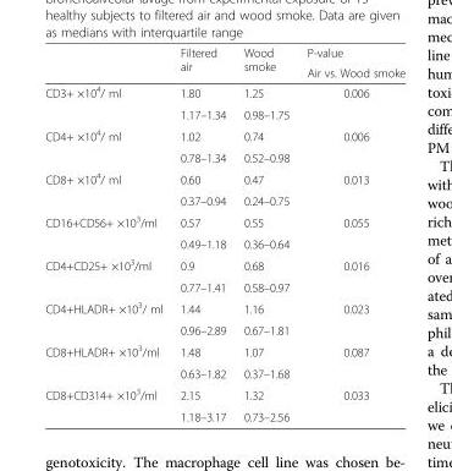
<table><thead><tr><td rowspan="2"></td><td rowspan="2">Filtered air</td><td rowspan="2">Wood smoke</td><td rowspan="2">P-value Air vs. Wood smoke</td></tr><tr></tr></thead><tbody><tr><td rowspan="2">CD3+ ×10<sup>4</sup>/ ml</td><td>1.80</td><td>1.25</td><td rowspan="2">0.006</td></tr><tr><td>1.17–1.34</td><td>0.98–1.75</td></tr><tr><td rowspan="2">CD4+ ×10<sup>4</sup>/ ml</td><td>1.02</td><td>0.74</td><td rowspan="2">0.006</td></tr><tr><td>0.78–1.34</td><td>0.52–0.98</td></tr><tr><td rowspan="2">CD8+ ×10<sup>4</sup>/ ml</td><td>0.60</td><td>0.47</td><td rowspan="2">0.013</td></tr><tr><td>0.37–0.94</td><td>0.24–0.75</td></tr><tr><td rowspan="2">CD16+CD56+ ×10<sup>3</sup>/ml</td><td>0.57</td><td>0.55</td><td rowspan="2">0.055</td></tr><tr><td>0.49–1.18</td><td>0.36–0.64</td></tr><tr><td rowspan="2">CD4+CD25+ ×10<sup>3</sup>/ml</td><td>0.9</td><td>0.68</td><td rowspan="2">0.016</td></tr><tr><td>0.77–1.41</td><td>0.58–0.97</td></tr><tr><td rowspan="2">CD4+HLADR+ ×10<sup>3</sup>/ ml</td><td>1.44</td><td>1.16</td><td rowspan="2">0.023</td></tr><tr><td>0.96–2.89</td><td>0.67–1.81</td></tr><tr><td rowspan="2">CD8+HLADR+ ×10<sup>3</sup>/ml</td><td>1.48</td><td>1.07</td><td rowspan="2">0.087</td></tr><tr><td>0.63–1.82</td><td>0.37–1.68</td></tr><tr><td rowspan="2">CD8+CD314+ ×10<sup>3</sup>/ml</td><td>2.15</td><td>1.32</td><td rowspan="2">0.033</td></tr><tr><td>1.18–3.17</td><td>0.73–2.56</td></tr></tbody></table>